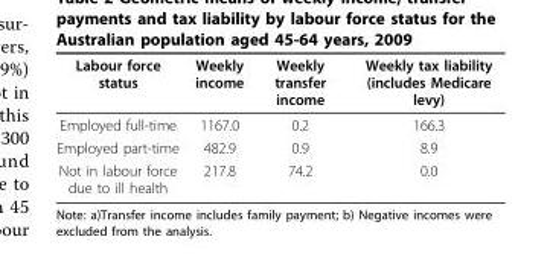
<table><thead><tr><td>Labour force status</td><td>Weekly income</td><td>Weekly transfer income</td><td>Weekly tax liability (includes Medicare levy)</td></tr></thead><tbody><tr><td>Employed full-time</td><td>1167.0</td><td>0.2</td><td>166.3</td></tr><tr><td>Employed part-time</td><td>482.9</td><td>0.9</td><td>8.9</td></tr><tr><td>Not in labour force due to ill health</td><td>217.8</td><td>74.2</td><td>0.0</td></tr></tbody></table>